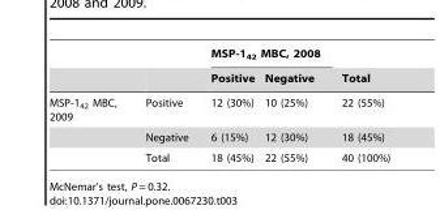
<table><thead><tr><td rowspan="2"></td><td rowspan="2"></td><td colspan="2">MSP-1<sub>42</sub> MBC, 2008</td><td rowspan="2">Total</td></tr><tr><td>Positive</td><td>Negative</td></tr></thead><tbody><tr><td rowspan="3">MSP-1<sub>42</sub> MBC, 2009</td><td>Positive</td><td>12 (30%)</td><td>10 (25%)</td><td>22 (55%)</td></tr><tr><td>Negative</td><td>6 (15%)</td><td>12 (30%)</td><td>18 (45%)</td></tr><tr><td>Total</td><td>18 (45%)</td><td>22 (55%)</td><td>40 (100%)</td></tr></tbody></table>